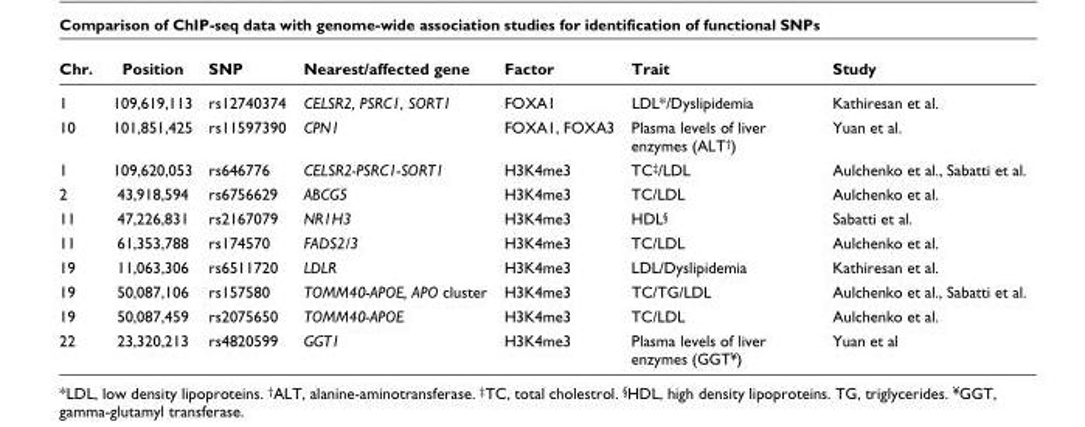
<table><thead><tr><td>Chr.</td><td>Position</td><td>SNP</td><td>Nearest/affected gene</td><td>Factor</td><td>Trait</td><td>Study</td></tr></thead><tbody><tr><td>1</td><td>109,619,113</td><td>rs12740374</td><td>CELSR2, PSRC1, SORT1</td><td>FOXA1</td><td>LDL*/Dyslipidemia</td><td>Kathiresan et al.</td></tr><tr><td>10</td><td>101,851,425</td><td>rs11597390</td><td>CPN1</td><td>FOXA1, FOXA3</td><td>Plasma levels of liver enzymes (ALT<sup>†</sup>)</td><td>Yuan et al.</td></tr><tr><td>1</td><td>109,620,053</td><td>rs646776</td><td>CELSR2-PSRC1-SORT1</td><td>H3K4me3</td><td>TC<sup>‡</sup>/LDL</td><td>Aulchenko et al., Sabatti et al.</td></tr><tr><td>2</td><td>43,918,594</td><td>rs6756629</td><td>ABCG5</td><td>H3K4me3</td><td>TC/LDL</td><td>Aulchenko et al.</td></tr><tr><td>11</td><td>47,226,831</td><td>rs2167079</td><td>NR1H3</td><td>H3K4me3</td><td>HDL<sup>§</sup></td><td>Sabatti et al.</td></tr><tr><td>11</td><td>61,353,788</td><td>rs174570</td><td>FADS2/3</td><td>H3K4me3</td><td>TC/LDL</td><td>Aulchenko et al.</td></tr><tr><td>19</td><td>11,063,306</td><td>rs6511720</td><td>LDLR</td><td>H3K4me3</td><td>LDL/Dyslipidemia</td><td>Kathiresan et al.</td></tr><tr><td>19</td><td>50,087,106</td><td>rs157580</td><td>TOMM40-APOE, APO cluster</td><td>H3K4me3</td><td>TC/TG/LDL</td><td>Aulchenko et al., Sabatti et al.</td></tr><tr><td>19</td><td>50,087,459</td><td>rs2075650</td><td>TOMM40-APOE</td><td>H3K4me3</td><td>TC/LDL</td><td>Aulchenko et al.</td></tr><tr><td>22</td><td>23,320,213</td><td>rs4820599</td><td>GGT1</td><td>H3K4me3</td><td>Plasma levels of liver enzymes (GGT<sup>¥</sup>)</td><td>Yuan et al</td></tr></tbody></table>